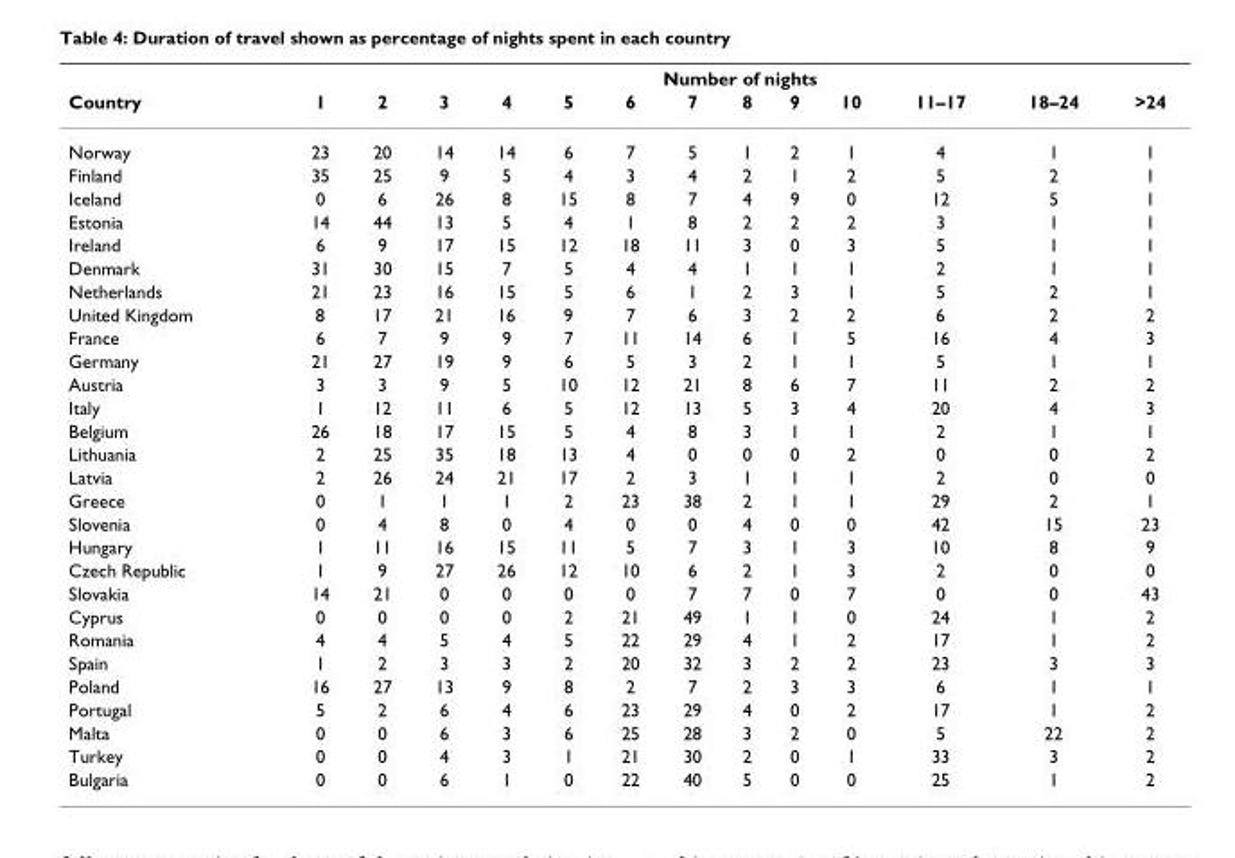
<table><thead><tr><td rowspan="2">Country</td><td colspan="13">Number of nights</td></tr><tr><td>1</td><td>2</td><td>3</td><td>4</td><td>5</td><td>6</td><td>7</td><td>8</td><td>9</td><td>10</td><td>11–17</td><td>18–24</td><td>&gt;24</td></tr></thead><tbody><tr><td>Norway</td><td>23</td><td>20</td><td>14</td><td>14</td><td>6</td><td>7</td><td>5</td><td>1</td><td>2</td><td>1</td><td>4</td><td>1</td><td>1</td></tr><tr><td>Finland</td><td>35</td><td>25</td><td>9</td><td>5</td><td>4</td><td>3</td><td>4</td><td>2</td><td>1</td><td>2</td><td>5</td><td>2</td><td>1</td></tr><tr><td>Iceland</td><td>0</td><td>6</td><td>26</td><td>8</td><td>15</td><td>8</td><td>7</td><td>4</td><td>9</td><td>0</td><td>12</td><td>5</td><td>1</td></tr><tr><td>Estonia</td><td>14</td><td>44</td><td>13</td><td>5</td><td>4</td><td>1</td><td>8</td><td>2</td><td>2</td><td>2</td><td>3</td><td>1</td><td>1</td></tr><tr><td>Ireland</td><td>6</td><td>9</td><td>17</td><td>15</td><td>12</td><td>18</td><td>11</td><td>3</td><td>0</td><td>3</td><td>5</td><td>1</td><td>1</td></tr><tr><td>Denmark</td><td>31</td><td>30</td><td>15</td><td>7</td><td>5</td><td>4</td><td>4</td><td>1</td><td>1</td><td>1</td><td>2</td><td>1</td><td>1</td></tr><tr><td>Netherlands</td><td>21</td><td>23</td><td>16</td><td>15</td><td>5</td><td>6</td><td>1</td><td>2</td><td>3</td><td>1</td><td>5</td><td>2</td><td>1</td></tr><tr><td>United Kingdom</td><td>8</td><td>17</td><td>21</td><td>16</td><td>9</td><td>7</td><td>6</td><td>3</td><td>2</td><td>2</td><td>6</td><td>2</td><td>2</td></tr><tr><td>France</td><td>6</td><td>7</td><td>9</td><td>9</td><td>7</td><td>11</td><td>14</td><td>6</td><td>1</td><td>5</td><td>16</td><td>4</td><td>3</td></tr><tr><td>Germany</td><td>21</td><td>27</td><td>19</td><td>9</td><td>6</td><td>5</td><td>3</td><td>2</td><td>1</td><td>1</td><td>5</td><td>1</td><td>1</td></tr><tr><td>Austria</td><td>3</td><td>3</td><td>9</td><td>5</td><td>10</td><td>12</td><td>21</td><td>8</td><td>6</td><td>7</td><td>11</td><td>2</td><td>2</td></tr><tr><td>Italy</td><td>1</td><td>12</td><td>11</td><td>6</td><td>5</td><td>12</td><td>13</td><td>5</td><td>3</td><td>4</td><td>20</td><td>4</td><td>3</td></tr><tr><td>Belgium</td><td>26</td><td>18</td><td>17</td><td>15</td><td>5</td><td>4</td><td>8</td><td>3</td><td>1</td><td>1</td><td>2</td><td>1</td><td>1</td></tr><tr><td>Lithuania</td><td>2</td><td>25</td><td>35</td><td>18</td><td>13</td><td>4</td><td>0</td><td>0</td><td>0</td><td>2</td><td>0</td><td>0</td><td>2</td></tr><tr><td>Latvia</td><td>2</td><td>26</td><td>24</td><td>21</td><td>17</td><td>2</td><td>3</td><td>1</td><td>1</td><td>1</td><td>2</td><td>0</td><td>0</td></tr><tr><td>Greece</td><td>0</td><td>1</td><td>1</td><td>1</td><td>2</td><td>23</td><td>38</td><td>2</td><td>1</td><td>1</td><td>29</td><td>2</td><td>1</td></tr><tr><td>Slovenia</td><td>0</td><td>4</td><td>8</td><td>0</td><td>4</td><td>0</td><td>0</td><td>4</td><td>0</td><td>0</td><td>42</td><td>15</td><td>23</td></tr><tr><td>Hungary</td><td>1</td><td>11</td><td>16</td><td>15</td><td>11</td><td>5</td><td>7</td><td>3</td><td>1</td><td>3</td><td>10</td><td>8</td><td>9</td></tr><tr><td>Czech Republic</td><td>1</td><td>9</td><td>27</td><td>26</td><td>12</td><td>10</td><td>6</td><td>2</td><td>1</td><td>3</td><td>2</td><td>0</td><td>0</td></tr><tr><td>Slovakia</td><td>14</td><td>21</td><td>0</td><td>0</td><td>0</td><td>0</td><td>7</td><td>7</td><td>0</td><td>7</td><td>0</td><td>0</td><td>43</td></tr><tr><td>Cyprus</td><td>0</td><td>0</td><td>0</td><td>0</td><td>2</td><td>21</td><td>49</td><td>1</td><td>1</td><td>0</td><td>24</td><td>1</td><td>2</td></tr><tr><td>Romania</td><td>4</td><td>4</td><td>5</td><td>4</td><td>5</td><td>22</td><td>29</td><td>4</td><td>1</td><td>2</td><td>17</td><td>1</td><td>2</td></tr><tr><td>Spain</td><td>1</td><td>2</td><td>3</td><td>3</td><td>2</td><td>20</td><td>32</td><td>3</td><td>2</td><td>2</td><td>23</td><td>3</td><td>3</td></tr><tr><td>Poland</td><td>16</td><td>27</td><td>13</td><td>9</td><td>8</td><td>2</td><td>7</td><td>2</td><td>3</td><td>3</td><td>6</td><td>1</td><td>1</td></tr><tr><td>Portugal</td><td>5</td><td>2</td><td>6</td><td>4</td><td>6</td><td>23</td><td>29</td><td>4</td><td>0</td><td>2</td><td>17</td><td>1</td><td>2</td></tr><tr><td>Malta</td><td>0</td><td>0</td><td>6</td><td>3</td><td>6</td><td>25</td><td>28</td><td>3</td><td>2</td><td>0</td><td>5</td><td>22</td><td>2</td></tr><tr><td>Turkey</td><td>0</td><td>0</td><td>4</td><td>3</td><td>1</td><td>21</td><td>30</td><td>2</td><td>0</td><td>1</td><td>33</td><td>3</td><td>2</td></tr><tr><td>Bulgaria</td><td>0</td><td>0</td><td>6</td><td>1</td><td>0</td><td>22</td><td>40</td><td>5</td><td>0</td><td>0</td><td>25</td><td>1</td><td>2</td></tr></tbody></table>